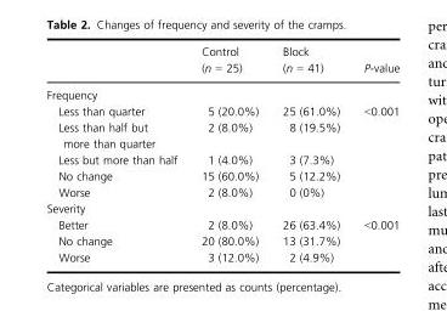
<table><thead><tr><td></td><td>Control (n = 25)</td><td>Block (n = 41)</td><td>P-value</td></tr></thead><tbody><tr><td colspan="4">Frequency</td></tr><tr><td>Less than quarter</td><td>5 (20.0%)</td><td>25 (61.0%)</td><td rowspan="5">&lt;0.001</td></tr><tr><td>Less than half but more than quarter</td><td>2 (8.0%)</td><td>8 (19.5%)</td></tr><tr><td>Less but more than half</td><td>1 (4.0%)</td><td>3 (7.3%)</td></tr><tr><td>No change</td><td>15 (60.0%)</td><td>5 (12.2%)</td></tr><tr><td>Worse</td><td>2 (8.0%)</td><td>0 (0%)</td></tr><tr><td colspan="4">Severity</td></tr><tr><td>Better</td><td>2 (8.0%)</td><td>26 (63.4%)</td><td rowspan="3">&lt;0.001</td></tr><tr><td>No change</td><td>20 (80.0%)</td><td>13 (31.7%)</td></tr><tr><td>Worse</td><td>3 (12.0%)</td><td>2 (4.9%)</td></tr></tbody></table>